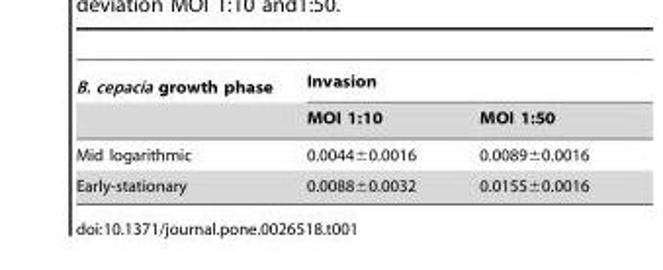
<table><thead><tr><td rowspan="2">B. cepacia growth phase</td><td colspan="2">Invasion</td></tr><tr><td>MOI 1:10</td><td>MOI 1:50</td></tr></thead><tbody><tr><td>Mid logarithmic</td><td>0.0044±0.0016</td><td>0.0089±0.0016</td></tr><tr><td>Early-stationary</td><td>0.0088±0.0032</td><td>0.0155±0.0016</td></tr></tbody></table>